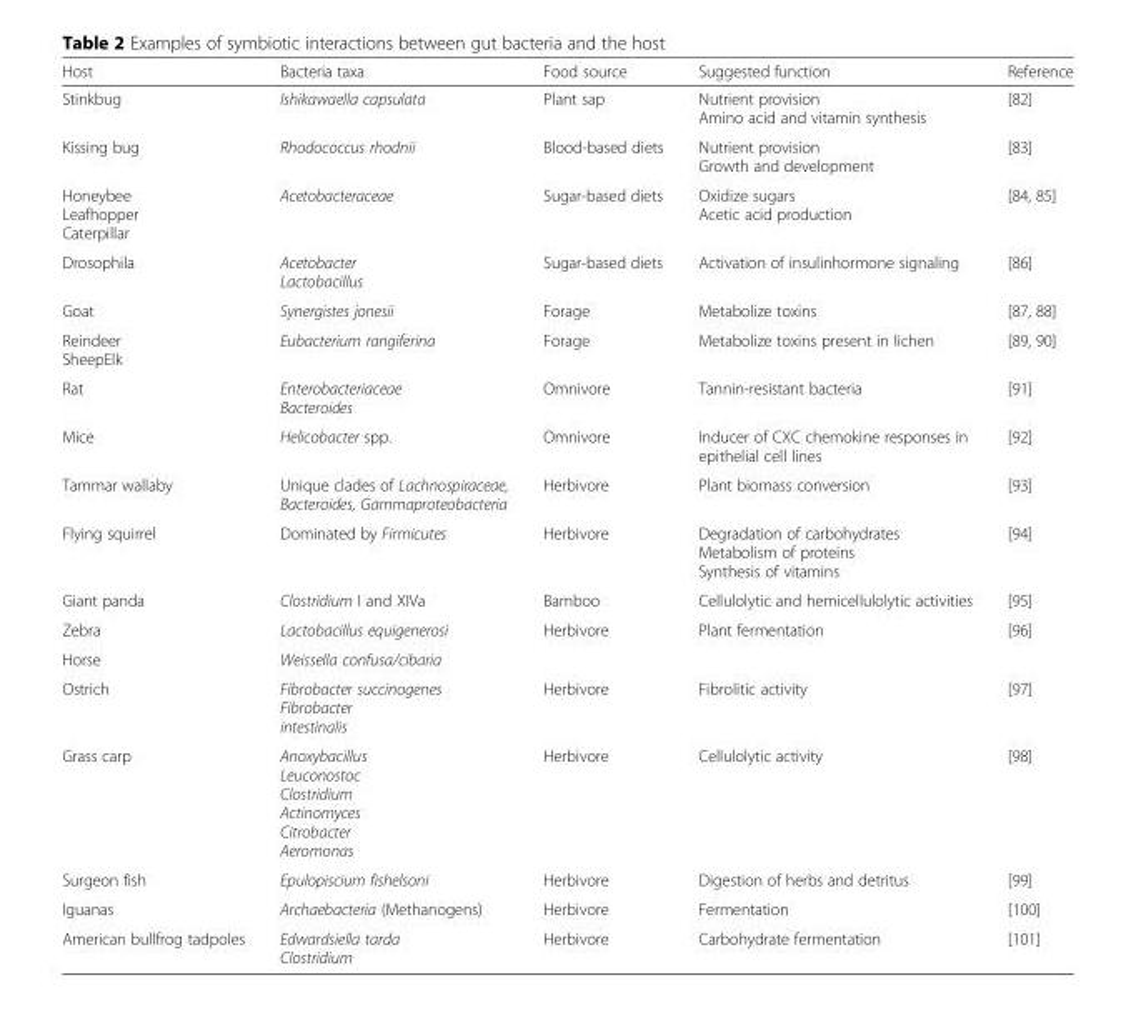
<table><thead><tr><td>Host</td><td>Bacteria taxa</td><td>Food source</td><td>Suggested function</td><td>Reference</td></tr></thead><tbody><tr><td>Stinkbug</td><td>Ishikawaella capsulata</td><td>Plant sap</td><td>Nutrient provision Amino acid and vitamin synthesis</td><td>[82]</td></tr><tr><td>Kissing bug</td><td>Rhodococcus rhodnii</td><td>Blood-based diets</td><td>Nutrient provision Growth and development</td><td>[83]</td></tr><tr><td>Honeybee Leafhopper Caterpillar</td><td>Acetobacteraceae</td><td>Sugar-based diets</td><td>Oxidize sugars Acetic acid production</td><td>[84, 85]</td></tr><tr><td>Drosophila</td><td>Acetobacter Lactobacillus</td><td>Sugar-based diets</td><td>Activation of insulinhormone signaling</td><td>[86]</td></tr><tr><td>Goat</td><td>Synergistes jonesii</td><td>Forage</td><td>Metabolize toxins</td><td>[87, 88]</td></tr><tr><td>Reindeer SheepElk</td><td>Eubacterium rangiferina</td><td>Forage</td><td>Metabolize toxins present in lichen</td><td>[89, 90]</td></tr><tr><td>Rat</td><td>Enterobacteriaceae Bacteroides</td><td>Omnivore</td><td>Tannin-resistant bacteria</td><td>[91]</td></tr><tr><td>Mice</td><td>Helicobacter spp.</td><td>Omnivore</td><td>Inducer of CXC chemokine responses in epithelial cell lines</td><td>[92]</td></tr><tr><td>Tammar wallaby</td><td>Unique clades of Lachnospiraceae, Bacteroides, Gammaproteobacteria</td><td>Herbivore</td><td>Plant biomass conversion</td><td>[93]</td></tr><tr><td>Flying squirrel</td><td>Dominated by Firmicutes</td><td>Herbivore</td><td>Degradation of carbohydrates Metabolism of proteins Synthesis of vitamins</td><td>[94]</td></tr><tr><td>Giant panda</td><td>Clostridium I and XIVa</td><td>Bamboo</td><td>Cellulolytic and hemicellulolytic activities</td><td>[95]</td></tr><tr><td>Zebra</td><td>Lactobacillus equigenerosi</td><td rowspan="2">Herbivore</td><td rowspan="2">Plant fermentation</td><td rowspan="2">[96]</td></tr><tr><td>Horse</td><td>Weissella confusa/cibaria</td></tr><tr><td>Ostrich</td><td>Fibrobacter succinogenes Fibrobacter intestinalis</td><td>Herbivore</td><td>Fibrolitic activity</td><td>[97]</td></tr><tr><td>Grass carp</td><td>Anoxybacillus Leuconostoc Clostridium Actinomyces Citrobacter Aeromonas</td><td>Herbivore</td><td>Cellulolytic activity</td><td>[98]</td></tr><tr><td>Surgeon fish</td><td>Epulopiscium fishelsoni</td><td>Herbivore</td><td>Digestion of herbs and detritus</td><td>[99]</td></tr><tr><td>Iguanas</td><td>Archaebacteria (Methanogens)</td><td>Herbivore</td><td>Fermentation</td><td>[100]</td></tr><tr><td>American bullfrog tadpoles</td><td>Edwardsiella tarda Clostridium</td><td>Herbivore</td><td>Carbohydrate fermentation</td><td>[101]</td></tr></tbody></table>